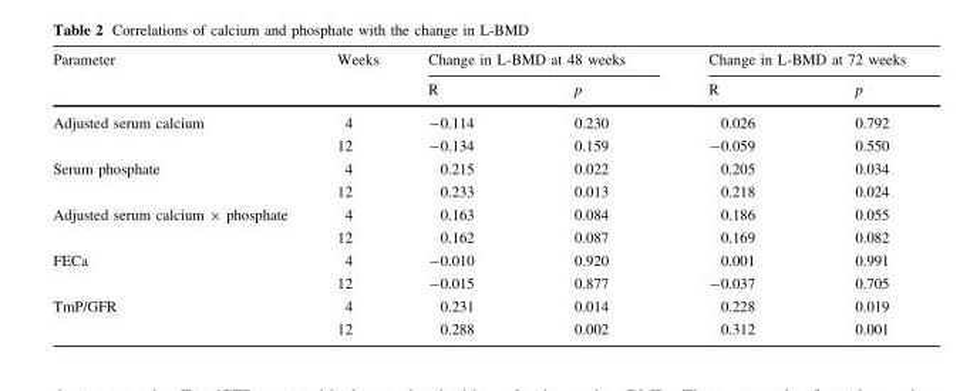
<table><thead><tr><td rowspan="2">Parameter</td><td rowspan="2">Weeks</td><td colspan="2">Change in L-BMD at 48 weeks</td><td colspan="2">Change in L-BMD at 72 weeks</td></tr><tr><td>R</td><td>p</td><td>R</td><td>p</td></tr></thead><tbody><tr><td rowspan="2">Adjusted serum calcium</td><td>4</td><td>-0.114</td><td>0.230</td><td>0.026</td><td>0.792</td></tr><tr><td>12</td><td>-0.134</td><td>0.159</td><td>-0.059</td><td>0.550</td></tr><tr><td rowspan="2">Serum phosphate</td><td>4</td><td>0.215</td><td>0.022</td><td>0.205</td><td>0.034</td></tr><tr><td>12</td><td>0.233</td><td>0.013</td><td>0.218</td><td>0.024</td></tr><tr><td rowspan="2">Adjusted serum calcium × phosphate</td><td>4</td><td>0.163</td><td>0.084</td><td>0.186</td><td>0.055</td></tr><tr><td>12</td><td>0.162</td><td>0.087</td><td>0.169</td><td>0.082</td></tr><tr><td rowspan="2">FECa</td><td>4</td><td>-0.010</td><td>0.920</td><td>0.001</td><td>0.991</td></tr><tr><td>12</td><td>-0.015</td><td>0.877</td><td>-0.037</td><td>0.705</td></tr><tr><td rowspan="2">TmP/GFR</td><td>4</td><td>0.231</td><td>0.014</td><td>0.228</td><td>0.019</td></tr><tr><td>12</td><td>0.288</td><td>0.002</td><td>0.312</td><td>0.001</td></tr></tbody></table>